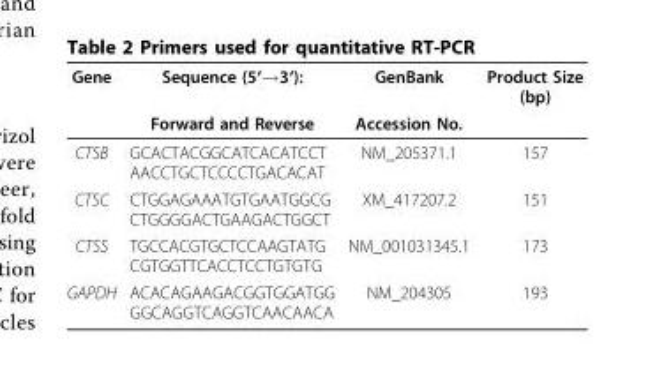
<table><thead><tr><td rowspan="2">Gene</td><td rowspan="2">Sequence (5′→3′): Forward and Reverse</td><td rowspan="2">GenBank Accession No.</td><td rowspan="2">Product Size (bp)</td></tr><tr></tr></thead><tbody><tr><td>CTSB</td><td>GCACTACGGCATCACATCCT AACCTGCTCCCCTGACACAT</td><td>NM_205371.1</td><td>157</td></tr><tr><td>CTSC</td><td>CTGGAGAAATGTGAATGGCG CTGGGGACTGAAGACTGGCT</td><td>XM_417207.2</td><td>151</td></tr><tr><td>CTSS</td><td>TGCCACGTGCTCCAAGTATG CGTGGTTCACCTCCTGTGTG</td><td>NM_001031345.1</td><td>173</td></tr><tr><td>GAPDH</td><td>ACACAGAAGACGGTGGATGG GGCAGGTCAGGTCAACAACA</td><td>NM_204305</td><td>193</td></tr></tbody></table>